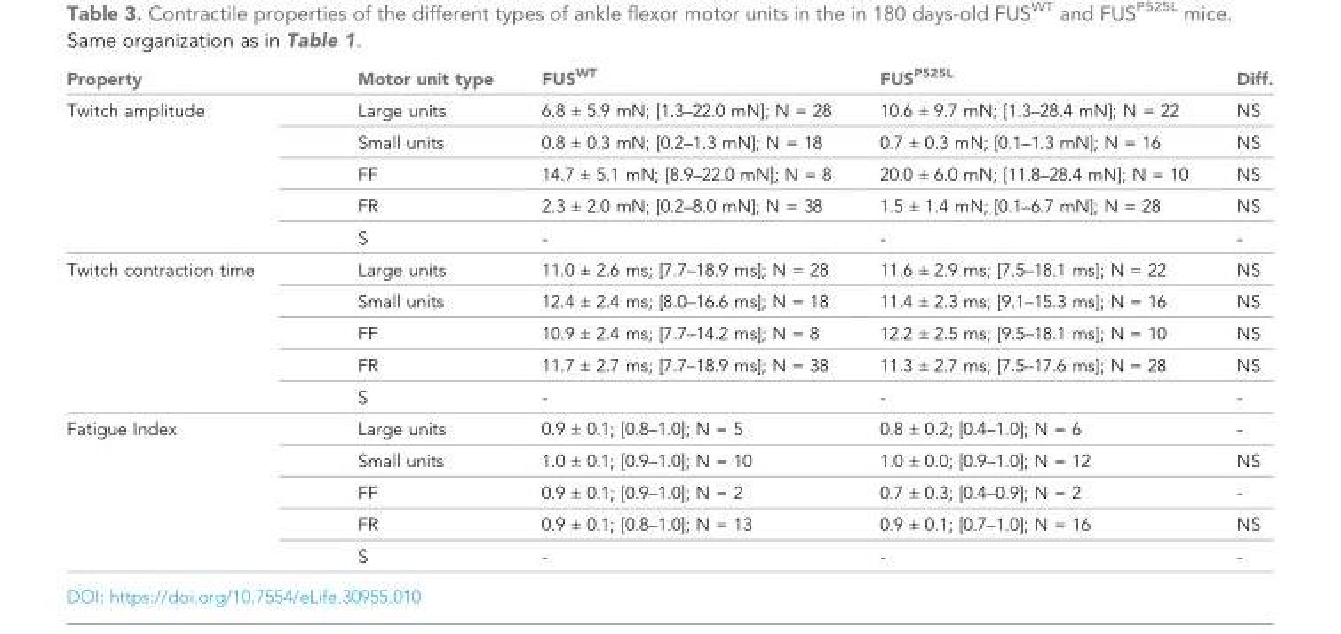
<table><thead><tr><td>Property</td><td>Motor unit type</td><td>FUS<sup>WT</sup></td><td>FUS<sup>P525L</sup></td><td>Diff.</td></tr></thead><tbody><tr><td rowspan="5">Twitch amplitude</td><td>Large units</td><td>6.8 ± 5.9 mN; [1.3–22.0 mN]; N = 28</td><td>10.6 ± 9.7 mN; [1.3–28.4 mN]; N = 22</td><td>NS</td></tr><tr><td>Small units</td><td>0.8 ± 0.3 mN; [0.2–1.3 mN]; N = 18</td><td>0.7 ± 0.3 mN; [0.1–1.3 mN]; N = 16</td><td>NS</td></tr><tr><td>FF</td><td>14.7 ± 5.1 mN; [8.9–22.0 mN]; N = 8</td><td>20.0 ± 6.0 mN; [11.8–28.4 mN]; N = 10</td><td>NS</td></tr><tr><td>FR</td><td>2.3 ± 2.0 mN; [0.2–8.0 mN]; N = 38</td><td>1.5 ± 1.4 mN; [0.1–6.7 mN]; N = 28</td><td>NS</td></tr><tr><td>S</td><td>-</td><td>-</td><td>-</td></tr><tr><td rowspan="5">Twitch contraction time</td><td>Large units</td><td>11.0 ± 2.6 ms; [7.7–18.9 ms]; N = 28</td><td>11.6 ± 2.9 ms; [7.5–18.1 ms]; N = 22</td><td>NS</td></tr><tr><td>Small units</td><td>12.4 ± 2.4 ms; [8.0–16.6 ms]; N = 18</td><td>11.4 ± 2.3 ms; [9.1–15.3 ms]; N = 16</td><td>NS</td></tr><tr><td>FF</td><td>10.9 ± 2.4 ms; [7.7–14.2 ms]; N = 8</td><td>12.2 ± 2.5 ms; [9.5–18.1 ms]; N = 10</td><td>NS</td></tr><tr><td>FR</td><td>11.7 ± 2.7 ms; [7.7–18.9 ms]; N = 38</td><td>11.3 ± 2.7 ms; [7.5–17.6 ms]; N = 28</td><td>NS</td></tr><tr><td>S</td><td>-</td><td>-</td><td>-</td></tr><tr><td rowspan="5">Fatigue Index</td><td>Large units</td><td>0.9 ± 0.1; [0.8–1.0]; N = 5</td><td>0.8 ± 0.2; [0.4–1.0]; N = 6</td><td>-</td></tr><tr><td>Small units</td><td>1.0 ± 0.1; [0.9–1.0]; N = 10</td><td>1.0 ± 0.0; [0.9–1.0]; N = 12</td><td>NS</td></tr><tr><td>FF</td><td>0.9 ± 0.1; [0.9–1.0]; N = 2</td><td>0.7 ± 0.3; [0.4–0.9]; N = 2</td><td>-</td></tr><tr><td>FR</td><td>0.9 ± 0.1; [0.8–1.0]; N = 13</td><td>0.9 ± 0.1; [0.7–1.0]; N = 16</td><td>NS</td></tr><tr><td>S</td><td>-</td><td>-</td><td>-</td></tr></tbody></table>